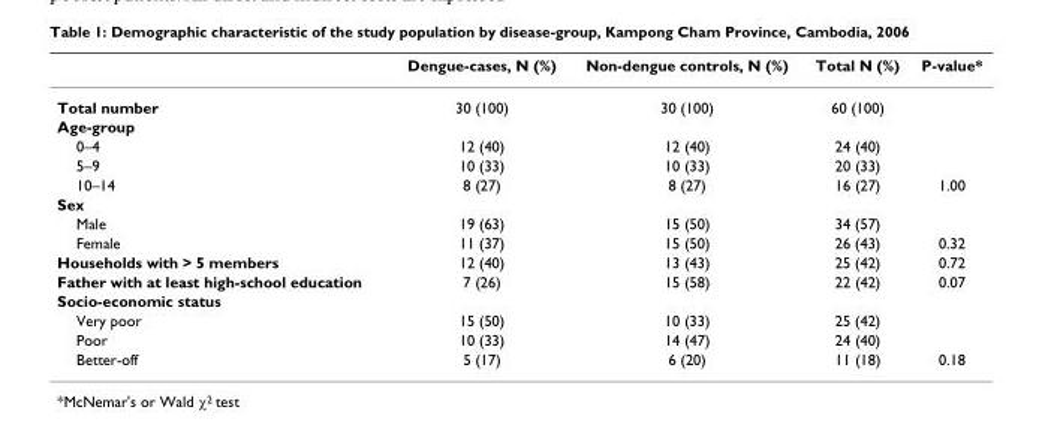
<table><thead><tr><td></td><td>Dengue-cases, N (%)</td><td>Non-dengue controls, N (%)</td><td>Total N (%)</td><td>P-value*</td></tr></thead><tbody><tr><td>Total number</td><td>30 (100)</td><td>30 (100)</td><td>60 (100)</td><td></td></tr><tr><td colspan="5">Age-group</td></tr><tr><td>0–4</td><td>12 (40)</td><td>12 (40)</td><td>24 (40)</td><td></td></tr><tr><td>5–9</td><td>10 (33)</td><td>10 (33)</td><td>20 (33)</td><td></td></tr><tr><td>10–14</td><td>8 (27)</td><td>8 (27)</td><td>16 (27)</td><td>1.00</td></tr><tr><td colspan="5">Sex</td></tr><tr><td>Male</td><td>19 (63)</td><td>15 (50)</td><td>34 (57)</td><td></td></tr><tr><td>Female</td><td>11 (37)</td><td>15 (50)</td><td>26 (43)</td><td>0.32</td></tr><tr><td>Households with &gt; 5 members</td><td>12 (40)</td><td>13 (43)</td><td>25 (42)</td><td>0.72</td></tr><tr><td>Father with at least high-school education</td><td>7 (26)</td><td>15 (58)</td><td>22 (42)</td><td>0.07</td></tr><tr><td colspan="5">Socio-economic status</td></tr><tr><td>Very poor</td><td>15 (50)</td><td>10 (33)</td><td>25 (42)</td><td></td></tr><tr><td>Poor</td><td>10 (33)</td><td>14 (47)</td><td>24 (40)</td><td></td></tr><tr><td>Better-off</td><td>5 (17)</td><td>6 (20)</td><td>11 (18)</td><td>0.18</td></tr></tbody></table>